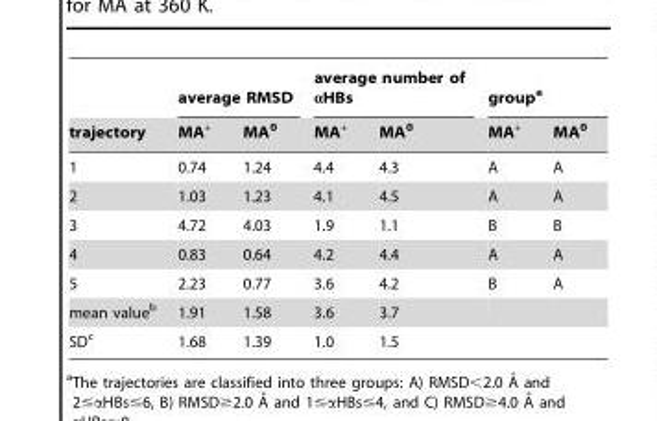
<table><thead><tr><td rowspan="2">trajectory</td><td colspan="2">average RMSD</td><td colspan="2">average number of αHBs</td><td colspan="2">group<sup>a</sup></td></tr><tr><td>MA<sup>+</sup></td><td>MA<sup>0</sup></td><td>MA<sup>+</sup></td><td>MA<sup>0</sup></td><td>MA<sup>+</sup></td><td>MA<sup>0</sup></td></tr></thead><tbody><tr><td>1</td><td>0.74</td><td>1.24</td><td>4.4</td><td>4.3</td><td>A</td><td>A</td></tr><tr><td>2</td><td>1.03</td><td>1.23</td><td>4.1</td><td>4.5</td><td>A</td><td>A</td></tr><tr><td>3</td><td>4.72</td><td>4.03</td><td>1.9</td><td>1.1</td><td>B</td><td>B</td></tr><tr><td>4</td><td>0.83</td><td>0.64</td><td>4.2</td><td>4.4</td><td>A</td><td>A</td></tr><tr><td>5</td><td>2.23</td><td>0.77</td><td>3.6</td><td>4.2</td><td>B</td><td>A</td></tr><tr><td>mean value<sup>b</sup></td><td>1.91</td><td>1.58</td><td>3.6</td><td>3.7</td><td></td><td></td></tr><tr><td>SD<sup>c</sup></td><td>1.68</td><td>1.39</td><td>1.0</td><td>1.5</td><td></td><td></td></tr></tbody></table>